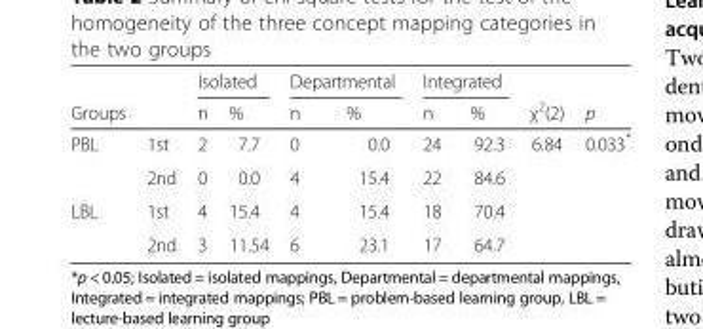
<table><thead><tr><td rowspan="2">Groups</td><td rowspan="2"></td><td colspan="2">Isolated</td><td colspan="2">Departmental</td><td colspan="2">Integrated</td><td rowspan="2">χ<sup>2</sup>(2)</td><td rowspan="2">p</td></tr><tr><td>n</td><td>%</td><td>n</td><td>%</td><td>n</td><td>%</td></tr></thead><tbody><tr><td rowspan="2">PBL</td><td>1st</td><td>2</td><td>7.7</td><td>0</td><td>0.0</td><td>24</td><td>92.3</td><td>6.84</td><td>0.033*</td></tr><tr><td>2nd</td><td>0</td><td>0.0</td><td>4</td><td>15.4</td><td>22</td><td>84.6</td><td></td><td></td></tr><tr><td rowspan="2">LBL</td><td>1st</td><td>4</td><td>15.4</td><td>4</td><td>15.4</td><td>18</td><td>70.4</td><td></td><td></td></tr><tr><td>2nd</td><td>3</td><td>11.54</td><td>6</td><td>23.1</td><td>17</td><td>64.7</td><td></td><td></td></tr></tbody></table>